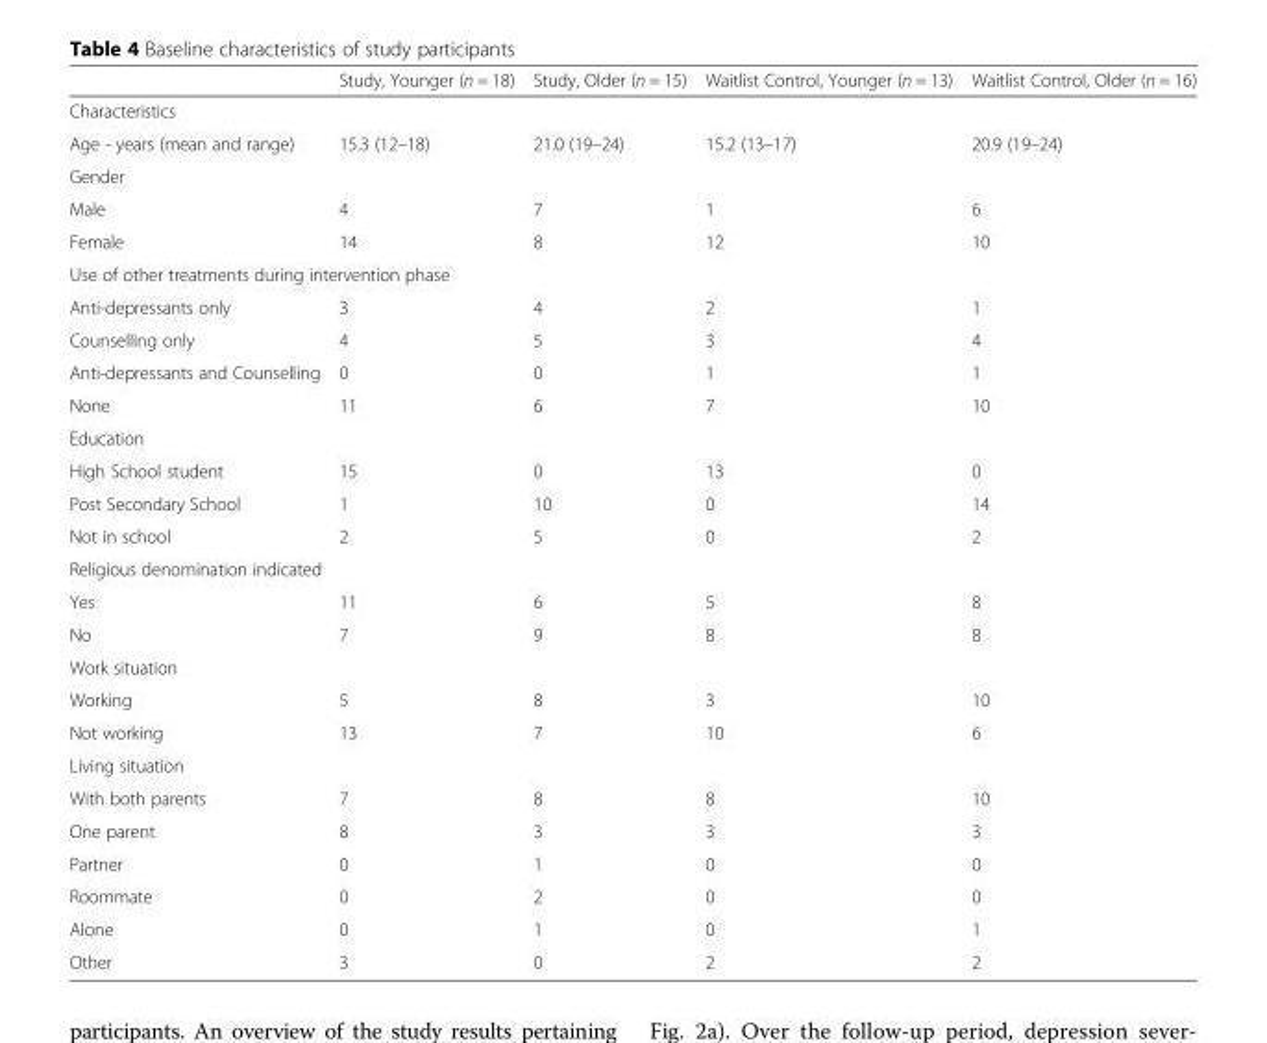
<table><thead><tr><td></td><td>Study, Younger (n = 18)</td><td>Study, Older (n = 15)</td><td>Waitlist Control, Younger (n = 13)</td><td>Waitlist Control, Older (n = 16)</td></tr></thead><tbody><tr><td colspan="5">Characteristics</td></tr><tr><td>Age - years (mean and range)</td><td>15.3 (12–18)</td><td>21.0 (19–24)</td><td>15.2 (13–17)</td><td>20.9 (19–24)</td></tr><tr><td colspan="5">Gender</td></tr><tr><td>Male</td><td>4</td><td>7</td><td>1</td><td>6</td></tr><tr><td>Female</td><td>14</td><td>8</td><td>12</td><td>10</td></tr><tr><td colspan="5">Use of other treatments during intervention phase</td></tr><tr><td>Anti-depressants only</td><td>3</td><td>4</td><td>2</td><td>1</td></tr><tr><td>Counselling only</td><td>4</td><td>5</td><td>3</td><td>4</td></tr><tr><td>Anti-depressants and Counselling</td><td>0</td><td>0</td><td>1</td><td>1</td></tr><tr><td>None</td><td>11</td><td>6</td><td>7</td><td>10</td></tr><tr><td colspan="5">Education</td></tr><tr><td>High School student</td><td>15</td><td>0</td><td>13</td><td>0</td></tr><tr><td>Post Secondary School</td><td>1</td><td>10</td><td>0</td><td>14</td></tr><tr><td>Not in school</td><td>2</td><td>5</td><td>0</td><td>2</td></tr><tr><td colspan="5">Religious denomination indicated</td></tr><tr><td>Yes</td><td>11</td><td>6</td><td>5</td><td>8</td></tr><tr><td>No</td><td>7</td><td>9</td><td>8</td><td>8</td></tr><tr><td colspan="5">Work situation</td></tr><tr><td>Working</td><td>5</td><td>8</td><td>3</td><td>10</td></tr><tr><td>Not working</td><td>13</td><td>7</td><td>10</td><td>6</td></tr><tr><td colspan="5">Living situation</td></tr><tr><td>With both parents</td><td>7</td><td>8</td><td>8</td><td>10</td></tr><tr><td>One parent</td><td>8</td><td>3</td><td>3</td><td>3</td></tr><tr><td>Partner</td><td>0</td><td>1</td><td>0</td><td>0</td></tr><tr><td>Roommate</td><td>0</td><td>2</td><td>0</td><td>0</td></tr><tr><td>Alone</td><td>0</td><td>1</td><td>0</td><td>1</td></tr><tr><td>Other</td><td>3</td><td>0</td><td>2</td><td>2</td></tr></tbody></table>